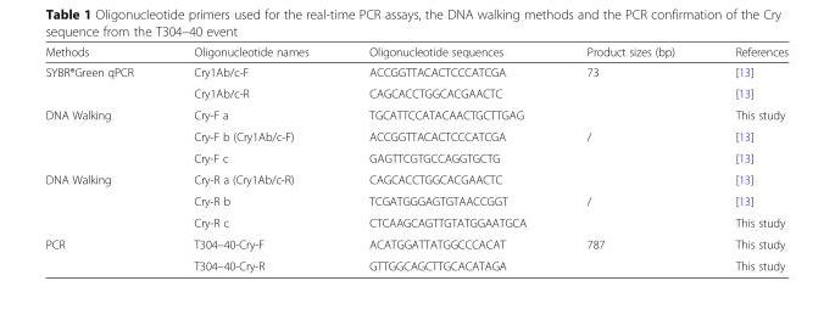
<table><thead><tr><td>Methods</td><td>Oligonucleotide names</td><td>Oligonucleotide sequences</td><td>Product sizes (bp)</td><td>References</td></tr></thead><tbody><tr><td rowspan="2">SYBR®Green qPCR</td><td>Cry1Ab/c-F</td><td>ACCGGTTACACTCCCATCGA</td><td rowspan="2">73</td><td>[13]</td></tr><tr><td>Cry1Ab/c-R</td><td>CAGCACCTGGCACGAACTC</td><td>[13]</td></tr><tr><td rowspan="3">DNA Walking</td><td>Cry-F a</td><td>TGCATTCCATACAACTGCTTGAG</td><td></td><td>This study</td></tr><tr><td>Cry-F b (Cry1Ab/c-F)</td><td>ACCGGTTACACTCCCATCGA</td><td>/</td><td>[13]</td></tr><tr><td>Cry-F c</td><td>GAGTTCGTGCCAGGTGCTG</td><td></td><td>[13]</td></tr><tr><td rowspan="3">DNA Walking</td><td>Cry-R a (Cry1Ab/c-R)</td><td>CAGCACCTGGCACGAACTC</td><td></td><td>[13]</td></tr><tr><td>Cry-R b</td><td>TCGATGGGAGTGTAACCGGT</td><td>/</td><td>[13]</td></tr><tr><td>Cry-R c</td><td>CTCAAGCAGTTGTATGGAATGCA</td><td></td><td>This study</td></tr><tr><td rowspan="2">PCR</td><td>T304–40-Cry-F</td><td>ACATGGATTATGGCCCACAT</td><td rowspan="2">787</td><td>This study</td></tr><tr><td>T304–40-Cry-R</td><td>GTTGGCAGCTTGCACATAGA</td><td>This study</td></tr></tbody></table>